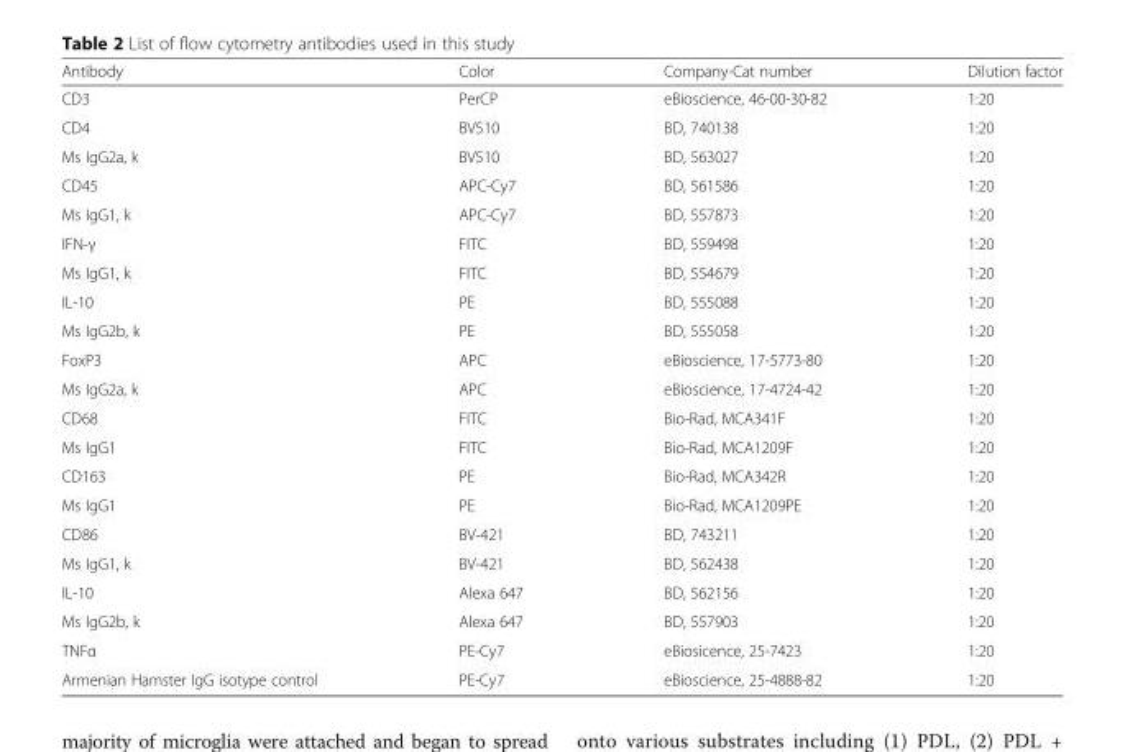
<table><thead><tr><td>Antibody</td><td>Color</td><td>Company-Cat number</td><td>Dilution factor</td></tr></thead><tbody><tr><td>CD3</td><td>PerCP</td><td>eBioscience, 46-00-30-82</td><td>1:20</td></tr><tr><td>CD4</td><td>BV510</td><td>BD, 740138</td><td>1:20</td></tr><tr><td>Ms IgG2a, k</td><td>BV510</td><td>BD, 563027</td><td>1:20</td></tr><tr><td>CD45</td><td>APC-Cy7</td><td>BD, 561586</td><td>1:20</td></tr><tr><td>Ms IgG1, k</td><td>APC-Cy7</td><td>BD, 557873</td><td>1:20</td></tr><tr><td>IFN-γ</td><td>FITC</td><td>BD, 559498</td><td>1:20</td></tr><tr><td>Ms IgG1, k</td><td>FITC</td><td>BD, 554679</td><td>1:20</td></tr><tr><td>IL-10</td><td>PE</td><td>BD, 555088</td><td>1:20</td></tr><tr><td>Ms IgG2b, k</td><td>PE</td><td>BD, 555058</td><td>1:20</td></tr><tr><td>FoxP3</td><td>APC</td><td>eBioscience, 17-5773-80</td><td>1:20</td></tr><tr><td>Ms IgG2a, k</td><td>APC</td><td>eBioscience, 17-4724-42</td><td>1:20</td></tr><tr><td>CD68</td><td>FITC</td><td>Bio-Rad, MCA341F</td><td>1:20</td></tr><tr><td>Ms IgG1</td><td>FITC</td><td>Bio-Rad, MCA1209F</td><td>1:20</td></tr><tr><td>CD163</td><td>PE</td><td>Bio-Rad, MCA342R</td><td>1:20</td></tr><tr><td>Ms IgG1</td><td>PE</td><td>Bio-Rad, MCA1209PE</td><td>1:20</td></tr><tr><td>CD86</td><td>BV-421</td><td>BD, 743211</td><td>1:20</td></tr><tr><td>Ms IgG1, k</td><td>BV-421</td><td>BD, 562438</td><td>1:20</td></tr><tr><td>IL-10</td><td>Alexa 647</td><td>BD, 562156</td><td>1:20</td></tr><tr><td>Ms IgG2b, k</td><td>Alexa 647</td><td>BD, 557903</td><td>1:20</td></tr><tr><td>TNFα</td><td>PE-Cy7</td><td>eBiosicence, 25-7423</td><td>1:20</td></tr><tr><td>Armenian Hamster IgG isotype control</td><td>PE-Cy7</td><td>eBioscience, 25-4888-82</td><td>1:20</td></tr></tbody></table>